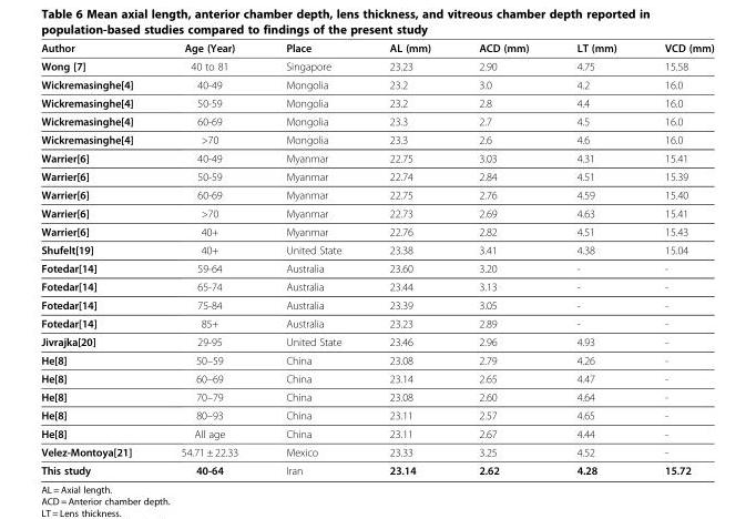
<table><thead><tr><td>Author</td><td>Age (Year)</td><td>Place</td><td>AL (mm)</td><td>ACD (mm)</td><td>LT (mm)</td><td>VCD (mm)</td></tr></thead><tbody><tr><td>Wong [7]</td><td>40 to 81</td><td>Singapore</td><td>23.23</td><td>2.90</td><td>4.75</td><td>15.58</td></tr><tr><td>Wickremasinghe[4]</td><td>40-49</td><td>Mongolia</td><td>23.2</td><td>3.0</td><td>4.2</td><td>16.0</td></tr><tr><td>Wickremasinghe[4]</td><td>50-59</td><td>Mongolia</td><td>23.2</td><td>2.8</td><td>4.4</td><td>16.0</td></tr><tr><td>Wickremasinghe[4]</td><td>60-69</td><td>Mongolia</td><td>23.3</td><td>2.7</td><td>4.5</td><td>16.0</td></tr><tr><td>Wickremasinghe[4]</td><td>&gt;70</td><td>Mongolia</td><td>23.3</td><td>2.6</td><td>4.6</td><td>16.0</td></tr><tr><td>Warrier[6]</td><td>40-49</td><td>Myanmar</td><td>22.75</td><td>3.03</td><td>4.31</td><td>15.41</td></tr><tr><td>Warrier[6]</td><td>50-59</td><td>Myanmar</td><td>22.74</td><td>2.84</td><td>4.51</td><td>15.39</td></tr><tr><td>Warrier[6]</td><td>60-69</td><td>Myanmar</td><td>22.75</td><td>2.76</td><td>4.59</td><td>15.40</td></tr><tr><td>Warrier[6]</td><td>&gt;70</td><td>Myanmar</td><td>22.73</td><td>2.69</td><td>4.63</td><td>15.41</td></tr><tr><td>Warrier[6]</td><td>40+</td><td>Myanmar</td><td>22.76</td><td>2.82</td><td>4.51</td><td>15.43</td></tr><tr><td>Shufelt[19]</td><td>40+</td><td>United State</td><td>23.38</td><td>3.41</td><td>4.38</td><td>15.04</td></tr><tr><td>Fotedar[14]</td><td>59-64</td><td>Australia</td><td>23.60</td><td>3.20</td><td>-</td><td>-</td></tr><tr><td>Fotedar[14]</td><td>65-74</td><td>Australia</td><td>23.44</td><td>3.13</td><td>-</td><td>-</td></tr><tr><td>Fotedar[14]</td><td>75-84</td><td>Australia</td><td>23.39</td><td>3.05</td><td>-</td><td>-</td></tr><tr><td>Fotedar[14]</td><td>85+</td><td>Australia</td><td>23.23</td><td>2.89</td><td>-</td><td>-</td></tr><tr><td>Jivrajka[20]</td><td>29-95</td><td>United State</td><td>23.46</td><td>2.96</td><td>4.93</td><td>-</td></tr><tr><td>He[8]</td><td>50–59</td><td>China</td><td>23.08</td><td>2.79</td><td>4.26</td><td>-</td></tr><tr><td>He[8]</td><td>60–69</td><td>China</td><td>23.14</td><td>2.65</td><td>4.47</td><td>-</td></tr><tr><td>He[8]</td><td>70–79</td><td>China</td><td>23.08</td><td>2.60</td><td>4.64</td><td>-</td></tr><tr><td>He[8]</td><td>80–93</td><td>China</td><td>23.11</td><td>2.57</td><td>4.65</td><td>-</td></tr><tr><td>He[8]</td><td>All age</td><td>China</td><td>23.11</td><td>2.67</td><td>4.44</td><td>-</td></tr><tr><td>Velez-Montoya[21]</td><td>54.71 ± 22.33</td><td>Mexico</td><td>23.33</td><td>3.25</td><td>4.52</td><td>-</td></tr><tr><td>This study</td><td>40-64</td><td>Iran</td><td>23.14</td><td>2.62</td><td>4.28</td><td>15.72</td></tr></tbody></table>